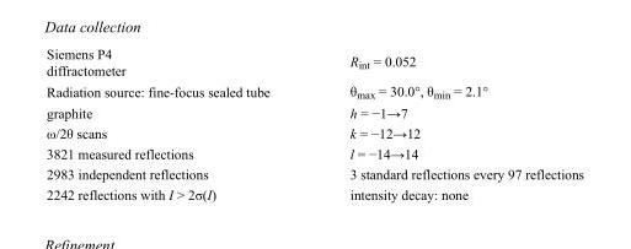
<table><tbody><tr><td>Siemens P4 diffractometer</td><td>R<sub>int</sub> = 0.052</td></tr><tr><td>Radiation source: fine-focus sealed tube</td><td>θ<sub>max</sub> = 30.0°, θ<sub>min</sub> = 2.1°</td></tr><tr><td>graphite</td><td>h = −1→7</td></tr><tr><td>ω/2θ scans</td><td>k = −12→12</td></tr><tr><td>3821 measured reflections</td><td>l = −14→14</td></tr><tr><td>2983 independent reflections</td><td>3 standard reflections every 97 reflections</td></tr><tr><td>2242 reflections with I &gt; 2σ(I)</td><td>intensity decay: none</td></tr></tbody></table>